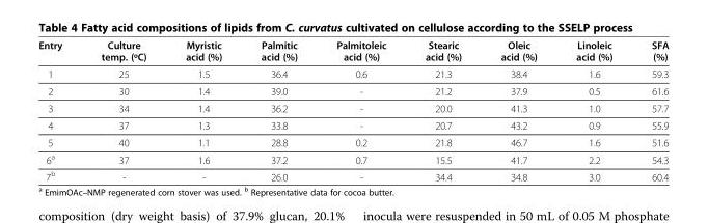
<table><thead><tr><td>Entry</td><td>Culture temp. (ºC)</td><td>Myristic acid (%)</td><td>Palmitic acid (%)</td><td>Palmitoleic acid (%)</td><td>Stearic acid (%)</td><td>Oleic acid (%)</td><td>Linoleic acid (%)</td><td>SFA (%)</td></tr></thead><tbody><tr><td>1</td><td>25</td><td>1.5</td><td>36.4</td><td>0.6</td><td>21.3</td><td>38.4</td><td>1.6</td><td>59.3</td></tr><tr><td>2</td><td>30</td><td>1.4</td><td>39.0</td><td>-</td><td>21.2</td><td>37.9</td><td>0.5</td><td>61.6</td></tr><tr><td>3</td><td>34</td><td>1.4</td><td>36.2</td><td>-</td><td>20.0</td><td>41.3</td><td>1.0</td><td>57.7</td></tr><tr><td>4</td><td>37</td><td>1.3</td><td>33.8</td><td>-</td><td>20.7</td><td>43.2</td><td>0.9</td><td>55.9</td></tr><tr><td>5</td><td>40</td><td>1.1</td><td>28.8</td><td>0.2</td><td>21.8</td><td>46.7</td><td>1.6</td><td>51.6</td></tr><tr><td>6<sup>a</sup></td><td>37</td><td>1.6</td><td>37.2</td><td>0.7</td><td>15.5</td><td>41.7</td><td>2.2</td><td>54.3</td></tr><tr><td>7<sup>b</sup></td><td>-</td><td>-</td><td>26.0</td><td>-</td><td>34.4</td><td>34.8</td><td>3.0</td><td>60.4</td></tr></tbody></table>